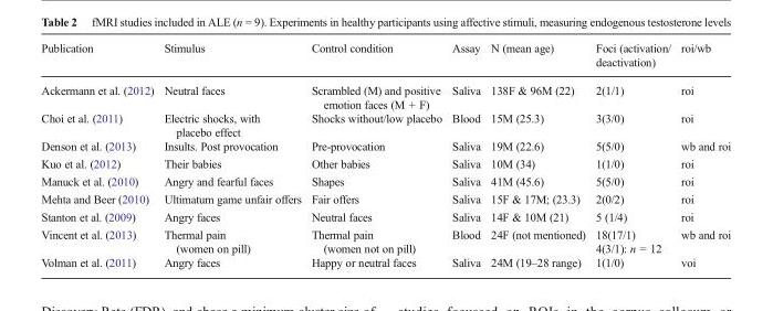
<table><thead><tr><td>Publication</td><td>Stimulus</td><td>Control condition</td><td>Assay</td><td>N (mean age)</td><td>Foci (activation/ deactivation)</td><td>roi/wb</td></tr></thead><tbody><tr><td>Ackermann et al. (2012)</td><td>Neutral faces</td><td>Scrambled (M) and positive emotion faces (M + F)</td><td>Saliva</td><td>138F &amp; 96M (22)</td><td>2(1/1)</td><td>roi</td></tr><tr><td>Choi et al. (2011)</td><td>Electric shocks, with placebo effect</td><td>Shocks without/low placebo</td><td>Blood</td><td>15M (25.3)</td><td>3(3/0)</td><td>roi</td></tr><tr><td>Denson et al. (2013)</td><td>Insults. Post provocation</td><td>Pre-provocation</td><td>Saliva</td><td>19M (22.6)</td><td>5(5/0)</td><td>wb and roi</td></tr><tr><td>Kuo et al. (2012)</td><td>Their babies</td><td>Other babies</td><td>Saliva</td><td>10M (34)</td><td>1(1/0)</td><td>roi</td></tr><tr><td>Manuck et al. (2010)</td><td>Angry and fearful faces</td><td>Shapes</td><td>Saliva</td><td>41M (45.6)</td><td>5(5/0)</td><td>roi</td></tr><tr><td>Mehta and Beer (2010)</td><td>Ultimatum game unfair offers</td><td>Fair offers</td><td>Saliva</td><td>15F &amp; 17M; (23.3)</td><td>2(0/2)</td><td>roi</td></tr><tr><td>Stanton et al. (2009)</td><td>Angry faces</td><td>Neutral faces</td><td>Saliva</td><td>14F &amp; 10M (21)</td><td>5 (1/4)</td><td>roi</td></tr><tr><td>Vincent et al. (2013)</td><td>Thermal pain (women on pill)</td><td>Thermal pain (women not on pill)</td><td>Blood</td><td>24F (not mentioned)</td><td>18(17/1) 4(3/1): n = 12</td><td>wb and roi</td></tr><tr><td>Volman et al. (2011)</td><td>Angry faces</td><td>Happy or neutral faces</td><td>Saliva</td><td>24M (19–28 range)</td><td>1(1/0)</td><td>voi</td></tr></tbody></table>